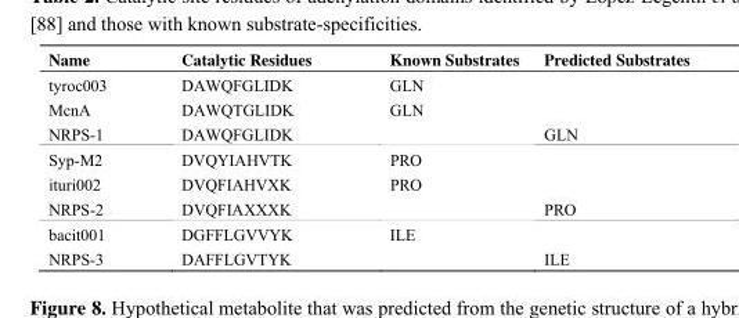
<table><thead><tr><td>Name</td><td>Catalytic Residues</td><td>Known Substrates</td><td>Predicted Substrates</td></tr></thead><tbody><tr><td>tyroc003</td><td>DAWQFGLIDK</td><td>GLN</td><td></td></tr><tr><td>McnA</td><td>DAWQTGLIDK</td><td>GLN</td><td></td></tr><tr><td>NRPS-1</td><td>DAWQFGLIDK</td><td></td><td>GLN</td></tr><tr><td>Syp-M2</td><td>DVQYIAHVTK</td><td>PRO</td><td></td></tr><tr><td>ituri002</td><td>DVQFIAHVXK</td><td>PRO</td><td></td></tr><tr><td>NRPS-2</td><td>DVQFIAXXXK</td><td></td><td>PRO</td></tr><tr><td>bacit001</td><td>DGFFLGVVYK</td><td>ILE</td><td></td></tr><tr><td>NRPS-3</td><td>DAFFLGVTYK</td><td></td><td>ILE</td></tr></tbody></table>